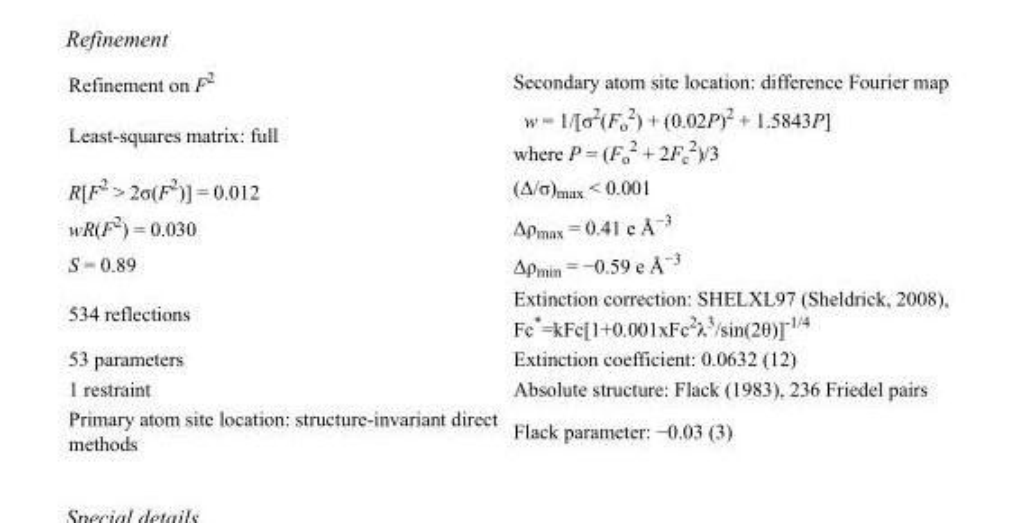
<table><tbody><tr><td>Refinement on F<sup>2</sup></td><td>Secondary atom site location: difference Fourier map</td></tr><tr><td>Least-squares matrix: full</td><td>w = 1/[σ<sup>2</sup>(F<sub>o</sub> <sup>2</sup>) + (0.02P)<sup>2</sup> + 1.5843P] where P = (F<sub>o</sub> <sup>2</sup> + 2F<sub>c</sub> <sup>2</sup>)/3</td></tr><tr><td>R[F<sup>2</sup> &gt; 2σ(F<sup>2</sup>)] = 0.012</td><td>(Δ/σ)<sub>max</sub> &lt; 0.001</td></tr><tr><td>wR(F<sup>2</sup>) = 0.030</td><td>Δρ<sub>max</sub> = 0.41 e Å<sup>−3</sup></td></tr><tr><td>S = 0.89</td><td>Δρ<sub>min</sub> = −0.59 e Å<sup>−3</sup></td></tr><tr><td>534 reflections</td><td>Extinction correction: SHELXL97 (Sheldrick, 2008), Fc*=kFc[1+0.001xFc<sup>2</sup>λ<sup>3</sup>/sin(2θ)]<sup>-1/4</sup></td></tr><tr><td>53 parameters</td><td>Extinction coefficient: 0.0632 (12)</td></tr><tr><td>1 restraint</td><td>Absolute structure: Flack (1983), 236 Friedel pairs</td></tr><tr><td>Primary atom site location: structure-invariant direct methods</td><td>Flack parameter: −0.03 (3)</td></tr></tbody></table>